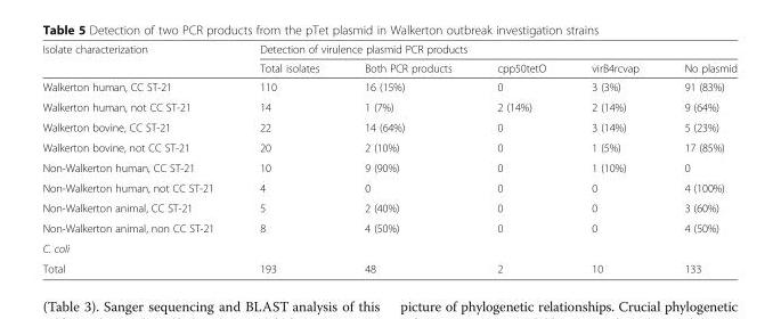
<table><thead><tr><td rowspan="2">Isolate characterization</td><td colspan="5">Detection of virulence plasmid PCR products</td></tr><tr><td>Total isolates</td><td>Both PCR products</td><td>cpp50tetO</td><td>virB4rcvap</td><td>No plasmid</td></tr></thead><tbody><tr><td>Walkerton human, CC ST-21</td><td>110</td><td>16 (15%)</td><td>0</td><td>3 (3%)</td><td>91 (83%)</td></tr><tr><td>Walkerton human, not CC ST-21</td><td>14</td><td>1 (7%)</td><td>2 (14%)</td><td>2 (14%)</td><td>9 (64%)</td></tr><tr><td>Walkerton bovine, CC ST-21</td><td>22</td><td>14 (64%)</td><td>0</td><td>3 (14%)</td><td>5 (23%)</td></tr><tr><td>Walkerton bovine, not CC ST-21</td><td>20</td><td>2 (10%)</td><td>0</td><td>1 (5%)</td><td>17 (85%)</td></tr><tr><td>Non-Walkerton human, CC ST-21</td><td>10</td><td>9 (90%)</td><td>0</td><td>1 (10%)</td><td>0</td></tr><tr><td>Non-Walkerton human, not CC ST-21</td><td>4</td><td>0</td><td>0</td><td>0</td><td>4 (100%)</td></tr><tr><td>Non-Walkerton animal, CC ST-21</td><td>5</td><td>2 (40%)</td><td>0</td><td>0</td><td>3 (60%)</td></tr><tr><td>Non-Walkerton animal, non CC ST-21</td><td rowspan="2">8</td><td rowspan="2">4 (50%)</td><td rowspan="2">0</td><td rowspan="2">0</td><td rowspan="2">4 (50%)</td></tr><tr><td>C. coli</td></tr><tr><td>Total</td><td>193</td><td>48</td><td>2</td><td>10</td><td>133</td></tr></tbody></table>